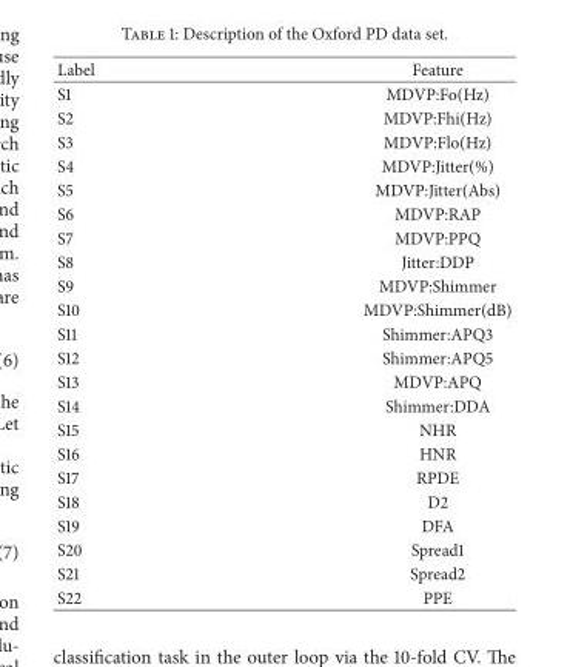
<table><thead><tr><td>Label</td><td>Feature</td></tr></thead><tbody><tr><td>S1</td><td>MDVP:Fo(Hz)</td></tr><tr><td>S2</td><td>MDVP:Fhi(Hz)</td></tr><tr><td>S3</td><td>MDVP:Flo(Hz)</td></tr><tr><td>S4</td><td>MDVP:Jitter(%)</td></tr><tr><td>S5</td><td>MDVP:Jitter(Abs)</td></tr><tr><td>S6</td><td>MDVP:RAP</td></tr><tr><td>S7</td><td>MDVP:PPQ</td></tr><tr><td>S8</td><td>Jitter:DDP</td></tr><tr><td>S9</td><td>MDVP:Shimmer</td></tr><tr><td>S10</td><td>MDVP:Shimmer(dB)</td></tr><tr><td>S11</td><td>Shimmer:APQ3</td></tr><tr><td>S12</td><td>Shimmer:APQ5</td></tr><tr><td>S13</td><td>MDVP:APQ</td></tr><tr><td>S14</td><td>Shimmer:DDA</td></tr><tr><td>S15</td><td>NHR</td></tr><tr><td>S16</td><td>HNR</td></tr><tr><td>S17</td><td>RPDE</td></tr><tr><td>S18</td><td>D2</td></tr><tr><td>S19</td><td>DFA</td></tr><tr><td>S20</td><td>Spread1</td></tr><tr><td>S21</td><td>Spread2</td></tr><tr><td>S22</td><td>PPE</td></tr></tbody></table>